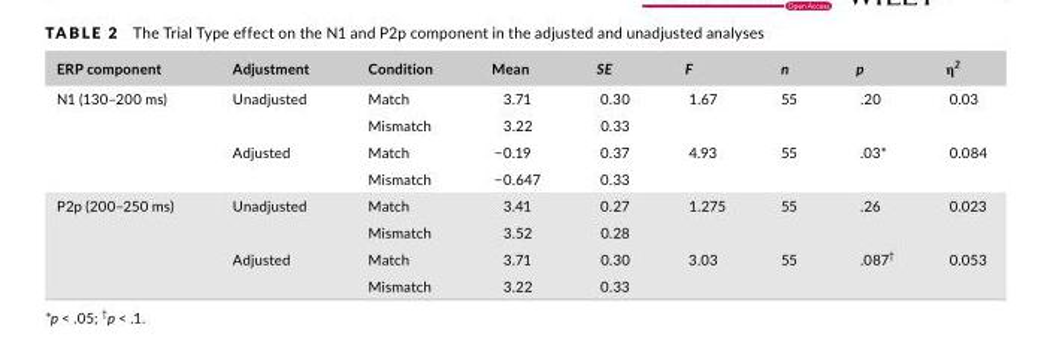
<table><thead><tr><td>ERP component</td><td>Adjustment</td><td>Condition</td><td>Mean</td><td>SE</td><td>F</td><td>n</td><td>p</td><td>η<sup>2</sup></td></tr></thead><tbody><tr><td rowspan="4">N1 (130–200 ms)</td><td rowspan="2">Unadjusted</td><td>Match</td><td>3.71</td><td>0.30</td><td rowspan="2">1.67</td><td rowspan="2">55</td><td rowspan="2">.20</td><td rowspan="2">0.03</td></tr><tr><td>Mismatch</td><td>3.22</td><td>0.33</td></tr><tr><td rowspan="2">Adjusted</td><td>Match</td><td>−0.19</td><td>0.37</td><td rowspan="2">4.93</td><td rowspan="2">55</td><td rowspan="2">.03*</td><td rowspan="2">0.084</td></tr><tr><td>Mismatch</td><td>−0.647</td><td>0.33</td></tr><tr><td rowspan="4">P2p (200–250 ms)</td><td rowspan="2">Unadjusted</td><td>Match</td><td>3.41</td><td>0.27</td><td rowspan="2">1.275</td><td rowspan="2">55</td><td rowspan="2">.26</td><td rowspan="2">0.023</td></tr><tr><td>Mismatch</td><td>3.52</td><td>0.28</td></tr><tr><td rowspan="2">Adjusted</td><td>Match</td><td>3.71</td><td>0.30</td><td rowspan="2">3.03</td><td rowspan="2">55</td><td rowspan="2">.087†</td><td rowspan="2">0.053</td></tr><tr><td>Mismatch</td><td>3.22</td><td>0.33</td></tr></tbody></table>